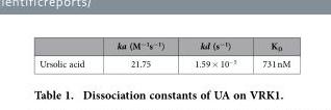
<table><thead><tr><td></td><td>ka (M<sup>−1</sup>s<sup>−1</sup>)</td><td>kd (s<sup>−1</sup>)</td><td>K<sub>D</sub></td></tr></thead><tbody><tr><td>Ursolic acid</td><td>21.75</td><td>1.59 × 10<sup>−5</sup></td><td>731 nM</td></tr></tbody></table>